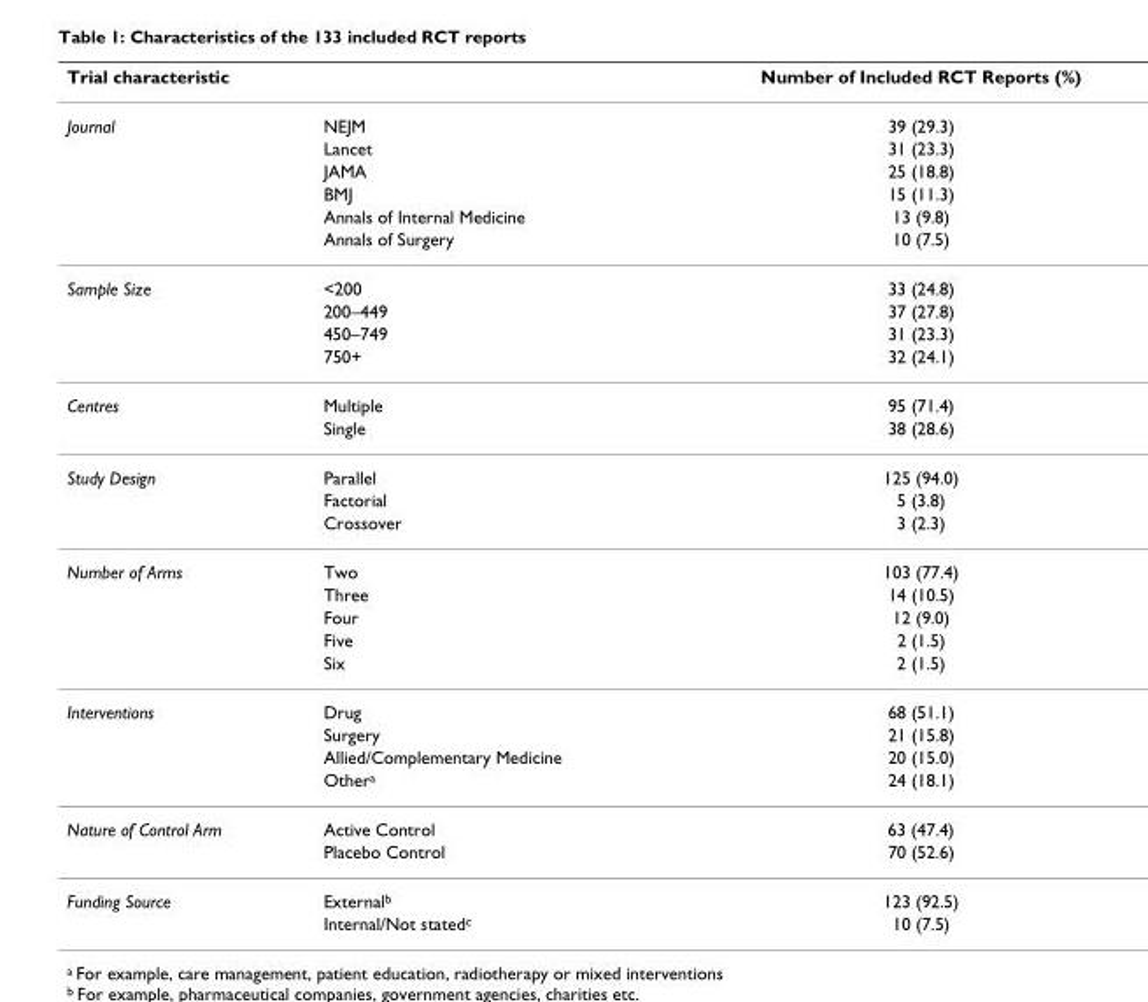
<table><thead><tr><td>Trial characteristic</td><td></td><td>Number of Included RCT Reports (%)</td></tr></thead><tbody><tr><td rowspan="6">Journal</td><td>NEJM</td><td>39 (29.3)</td></tr><tr><td>Lancet</td><td>31 (23.3)</td></tr><tr><td>JAMA</td><td>25 (18.8)</td></tr><tr><td>BMJ</td><td>15 (11.3)</td></tr><tr><td>Annals of Internal Medicine</td><td>13 (9.8)</td></tr><tr><td>Annals of Surgery</td><td>10 (7.5)</td></tr><tr><td rowspan="4">Sample Size</td><td>&lt;200</td><td>33 (24.8)</td></tr><tr><td>200–449</td><td>37 (27.8)</td></tr><tr><td>450–749</td><td>31 (23.3)</td></tr><tr><td>750+</td><td>32 (24.1)</td></tr><tr><td rowspan="2">Centres</td><td>Multiple</td><td>95 (71.4)</td></tr><tr><td>Single</td><td>38 (28.6)</td></tr><tr><td rowspan="3">Study Design</td><td>Parallel</td><td>125 (94.0)</td></tr><tr><td>Factorial</td><td>5 (3.8)</td></tr><tr><td>Crossover</td><td>3 (2.3)</td></tr><tr><td rowspan="5">Number of Arms</td><td>Two</td><td>103 (77.4)</td></tr><tr><td>Three</td><td>14 (10.5)</td></tr><tr><td>Four</td><td>12 (9.0)</td></tr><tr><td>Five</td><td>2 (1.5)</td></tr><tr><td>Six</td><td>2 (1.5)</td></tr><tr><td rowspan="4">Interventions</td><td>Drug</td><td>68 (51.1)</td></tr><tr><td>Surgery</td><td>21 (15.8)</td></tr><tr><td>Allied/Complementary Medicine</td><td>20 (15.0)</td></tr><tr><td>Other<sup>a</sup></td><td>24 (18.1)</td></tr><tr><td rowspan="2">Nature of Control Arm</td><td>Active Control</td><td>63 (47.4)</td></tr><tr><td>Placebo Control</td><td>70 (52.6)</td></tr><tr><td rowspan="2">Funding Source</td><td>External<sup>b</sup></td><td>123 (92.5)</td></tr><tr><td>Internal/Not stated<sup>c</sup></td><td>10 (7.5)</td></tr></tbody></table>